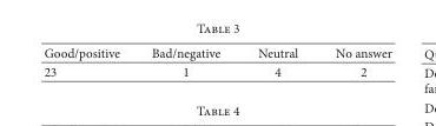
<table><thead><tr><td>Good/positive</td><td>Bad/negative</td><td>Neutral</td><td>No answer</td></tr></thead><tbody><tr><td>23</td><td>1</td><td>4</td><td>2</td></tr></tbody></table>